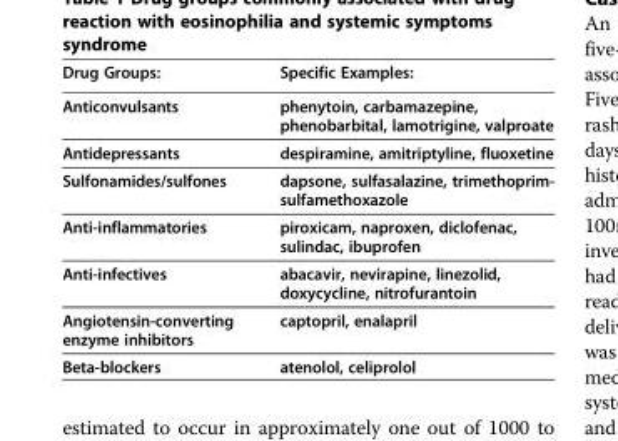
<table><thead><tr><td>Drug Groups:</td><td>Specific Examples:</td></tr></thead><tbody><tr><td>Anticonvulsants</td><td>phenytoin, carbamazepine, phenobarbital, lamotrigine, valproate</td></tr><tr><td>Antidepressants</td><td>despiramine, amitriptyline, fluoxetine</td></tr><tr><td>Sulfonamides/sulfones</td><td>dapsone, sulfasalazine, trimethoprim- sulfamethoxazole</td></tr><tr><td>Anti-inflammatories</td><td>piroxicam, naproxen, diclofenac, sulindac, ibuprofen</td></tr><tr><td>Anti-infectives</td><td>abacavir, nevirapine, linezolid, doxycycline, nitrofurantoin</td></tr><tr><td>Angiotensin-converting enzyme inhibitors</td><td>captopril, enalapril</td></tr><tr><td>Beta-blockers</td><td>atenolol, celiprolol</td></tr></tbody></table>